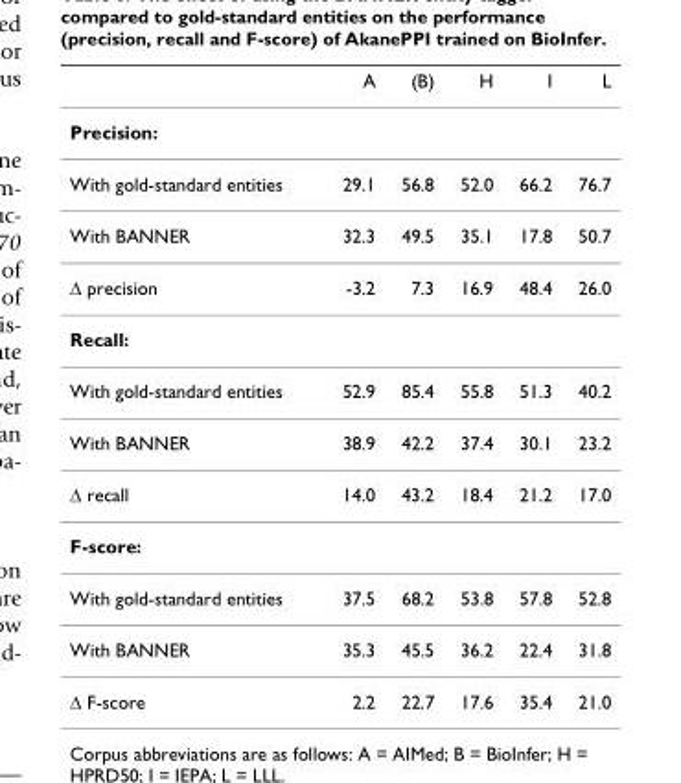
<table><thead><tr><td></td><td>A</td><td>(B)</td><td>H</td><td>I</td><td>L</td></tr></thead><tbody><tr><td colspan="6">Precision:</td></tr><tr><td>With gold-standard entities</td><td>29.1</td><td>56.8</td><td>52.0</td><td>66.2</td><td>76.7</td></tr><tr><td>With BANNER</td><td>32.3</td><td>49.5</td><td>35.1</td><td>17.8</td><td>50.7</td></tr><tr><td>Δ precision</td><td>-3.2</td><td>7.3</td><td>16.9</td><td>48.4</td><td>26.0</td></tr><tr><td colspan="6">Recall:</td></tr><tr><td>With gold-standard entities</td><td>52.9</td><td>85.4</td><td>55.8</td><td>51.3</td><td>40.2</td></tr><tr><td>With BANNER</td><td>38.9</td><td>42.2</td><td>37.4</td><td>30.1</td><td>23.2</td></tr><tr><td>Δ recall</td><td>14.0</td><td>43.2</td><td>18.4</td><td>21.2</td><td>17.0</td></tr><tr><td colspan="6">F-score:</td></tr><tr><td>With gold-standard entities</td><td>37.5</td><td>68.2</td><td>53.8</td><td>57.8</td><td>52.8</td></tr><tr><td>With BANNER</td><td>35.3</td><td>45.5</td><td>36.2</td><td>22.4</td><td>31.8</td></tr><tr><td>Δ F-score</td><td>2.2</td><td>22.7</td><td>17.6</td><td>35.4</td><td>21.0</td></tr></tbody></table>